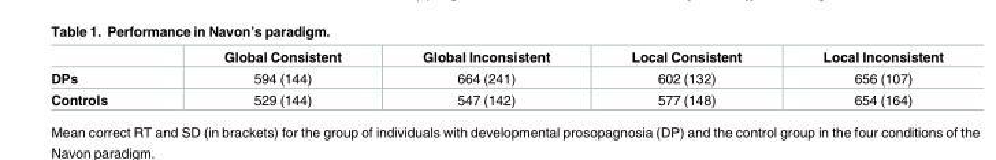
<table><thead><tr><td></td><td>Global Consistent</td><td>Global Inconsistent</td><td>Local Consistent</td><td>Local Inconsistent</td></tr></thead><tbody><tr><td>DPs</td><td>594 (144)</td><td>664 (241)</td><td>602 (132)</td><td>656 (107)</td></tr><tr><td>Controls</td><td>529 (144)</td><td>547 (142)</td><td>577 (148)</td><td>654 (164)</td></tr></tbody></table>